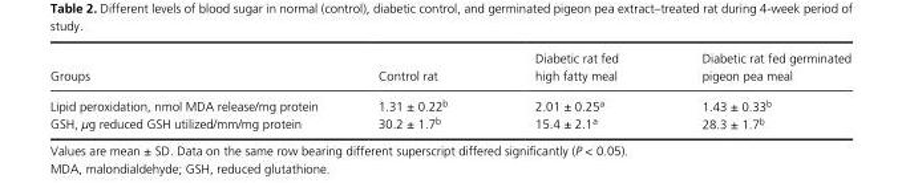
<table><thead><tr><td>Groups</td><td>Control rat</td><td>Diabetic rat fed high fatty meal</td><td>Diabetic rat fed germinated pigeon pea meal</td></tr></thead><tbody><tr><td>Lipid peroxidation, nmol MDA release/mg protein</td><td>1.31 ± 0.22<sup>b</sup></td><td>2.01 ± 0.25<sup>a</sup></td><td>1.43 ± 0.33<sup>b</sup></td></tr><tr><td>GSH, μg reduced GSH utilized/mm/mg protein</td><td>30.2 ± 1.7<sup>b</sup></td><td>15.4 ± 2.1<sup>a</sup></td><td>28.3 ± 1.7<sup>b</sup></td></tr></tbody></table>